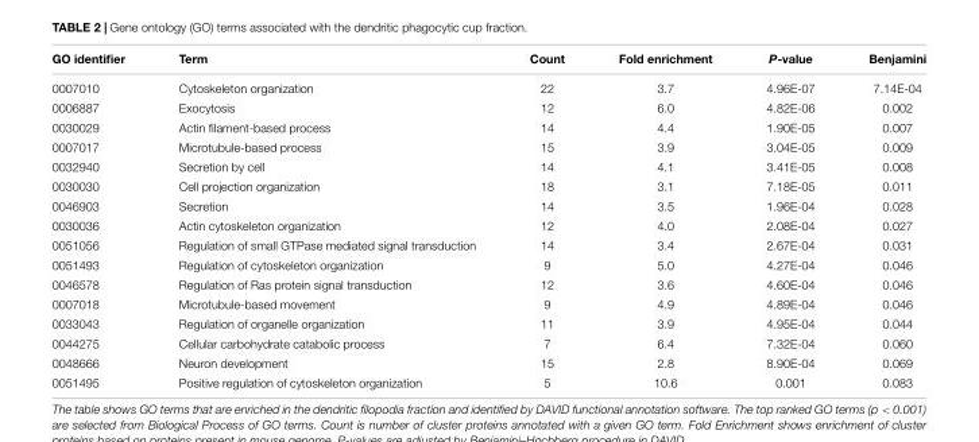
<table><thead><tr><td>GO identifier</td><td>Term</td><td>Count</td><td>Fold enrichment</td><td>P-value</td><td>Benjamini</td></tr></thead><tbody><tr><td>0007010</td><td>Cytoskeleton organization</td><td>22</td><td>3.7</td><td>4.96E-07</td><td>7.14E-04</td></tr><tr><td>0006887</td><td>Exocytosis</td><td>12</td><td>6.0</td><td>4.82E-06</td><td>0.002</td></tr><tr><td>0030029</td><td>Actin filament-based process</td><td>14</td><td>4.4</td><td>1.90E-05</td><td>0.007</td></tr><tr><td>0007017</td><td>Microtubule-based process</td><td>15</td><td>3.9</td><td>3.04E-05</td><td>0.009</td></tr><tr><td>0032940</td><td>Secretion by cell</td><td>14</td><td>4.1</td><td>3.41E-05</td><td>0.008</td></tr><tr><td>0030030</td><td>Cell projection organization</td><td>18</td><td>3.1</td><td>7.18E-05</td><td>0.011</td></tr><tr><td>0046903</td><td>Secretion</td><td>14</td><td>3.5</td><td>1.96E-04</td><td>0.028</td></tr><tr><td>0030036</td><td>Actin cytoskeleton organization</td><td>12</td><td>4.0</td><td>2.08E-04</td><td>0.027</td></tr><tr><td>0051056</td><td>Regulation of small GTPase mediated signal transduction</td><td>14</td><td>3.4</td><td>2.67E-04</td><td>0.031</td></tr><tr><td>0051493</td><td>Regulation of cytoskeleton organization</td><td>9</td><td>5.0</td><td>4.27E-04</td><td>0.046</td></tr><tr><td>0046578</td><td>Regulation of Ras protein signal transduction</td><td>12</td><td>3.6</td><td>4.60E-04</td><td>0.046</td></tr><tr><td>0007018</td><td>Microtubule-based movement</td><td>9</td><td>4.9</td><td>4.89E-04</td><td>0.046</td></tr><tr><td>0033043</td><td>Regulation of organelle organization</td><td>11</td><td>3.9</td><td>4.95E-04</td><td>0.044</td></tr><tr><td>0044275</td><td>Cellular carbohydrate catabolic process</td><td>7</td><td>6.4</td><td>7.32E-04</td><td>0.060</td></tr><tr><td>0048666</td><td>Neuron development</td><td>15</td><td>2.8</td><td>8.90E-04</td><td>0.069</td></tr><tr><td>0051495</td><td>Positive regulation of cytoskeleton organization</td><td>5</td><td>10.6</td><td>0.001</td><td>0.083</td></tr></tbody></table>